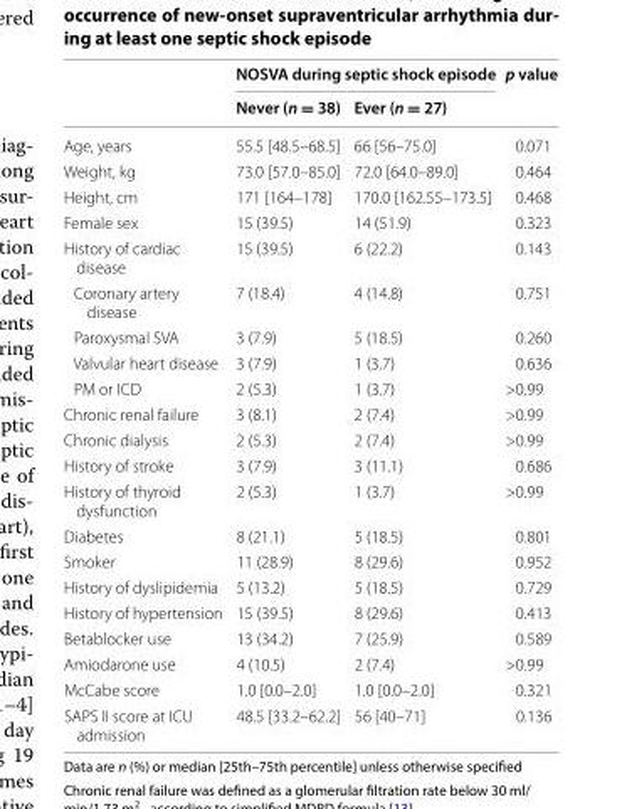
<table><thead><tr><td rowspan="2"></td><td colspan="2">NOSVA during septic shock episode</td><td rowspan="2">p value</td></tr><tr><td>Never (n = 38)</td><td>Ever (n = 27)</td></tr></thead><tbody><tr><td>Age, years</td><td>55.5 [48.5–68.5]</td><td>66 [56–75.0]</td><td>0.071</td></tr><tr><td>Weight, kg</td><td>73.0 [57.0–85.0]</td><td>72.0 [64.0–89.0]</td><td>0.464</td></tr><tr><td>Height, cm</td><td>171 [164–178]</td><td>170.0 [162.55–173.5]</td><td>0.468</td></tr><tr><td>Female sex</td><td>15 (39.5)</td><td>14 (51.9)</td><td>0.323</td></tr><tr><td>History of cardiac disease</td><td>15 (39.5)</td><td>6 (22.2)</td><td>0.143</td></tr><tr><td>Coronary artery disease</td><td>7 (18.4)</td><td>4 (14.8)</td><td>0.751</td></tr><tr><td>Paroxysmal SVA</td><td>3 (7.9)</td><td>5 (18.5)</td><td>0.260</td></tr><tr><td>Valvular heart disease</td><td>3 (7.9)</td><td>1 (3.7)</td><td>0.636</td></tr><tr><td>PM or ICD</td><td>2 (5.3)</td><td>1 (3.7)</td><td>&gt;0.99</td></tr><tr><td>Chronic renal failure</td><td>3 (8.1)</td><td>2 (7.4)</td><td>&gt;0.99</td></tr><tr><td>Chronic dialysis</td><td>2 (5.3)</td><td>2 (7.4)</td><td>&gt;0.99</td></tr><tr><td>History of stroke</td><td>3 (7.9)</td><td>3 (11.1)</td><td>0.686</td></tr><tr><td>History of thyroid dysfunction</td><td>2 (5.3)</td><td>1 (3.7)</td><td>&gt;0.99</td></tr><tr><td>Diabetes</td><td>8 (21.1)</td><td>5 (18.5)</td><td>0.801</td></tr><tr><td>Smoker</td><td>11 (28.9)</td><td>8 (29.6)</td><td>0.952</td></tr><tr><td>History of dyslipidemia</td><td>5 (13.2)</td><td>5 (18.5)</td><td>0.729</td></tr><tr><td>History of hypertension</td><td>15 (39.5)</td><td>8 (29.6)</td><td>0.413</td></tr><tr><td>Betablocker use</td><td>13 (34.2)</td><td>7 (25.9)</td><td>0.589</td></tr><tr><td>Amiodarone use</td><td>4 (10.5)</td><td>2 (7.4)</td><td>&gt;0.99</td></tr><tr><td>McCabe score</td><td>1.0 [0.0–2.0]</td><td>1.0 [0.0–2.0]</td><td>0.321</td></tr><tr><td>SAPS II score at ICU admission</td><td>48.5 [33.2–62.2]</td><td>56 [40–71]</td><td>0.136</td></tr></tbody></table>